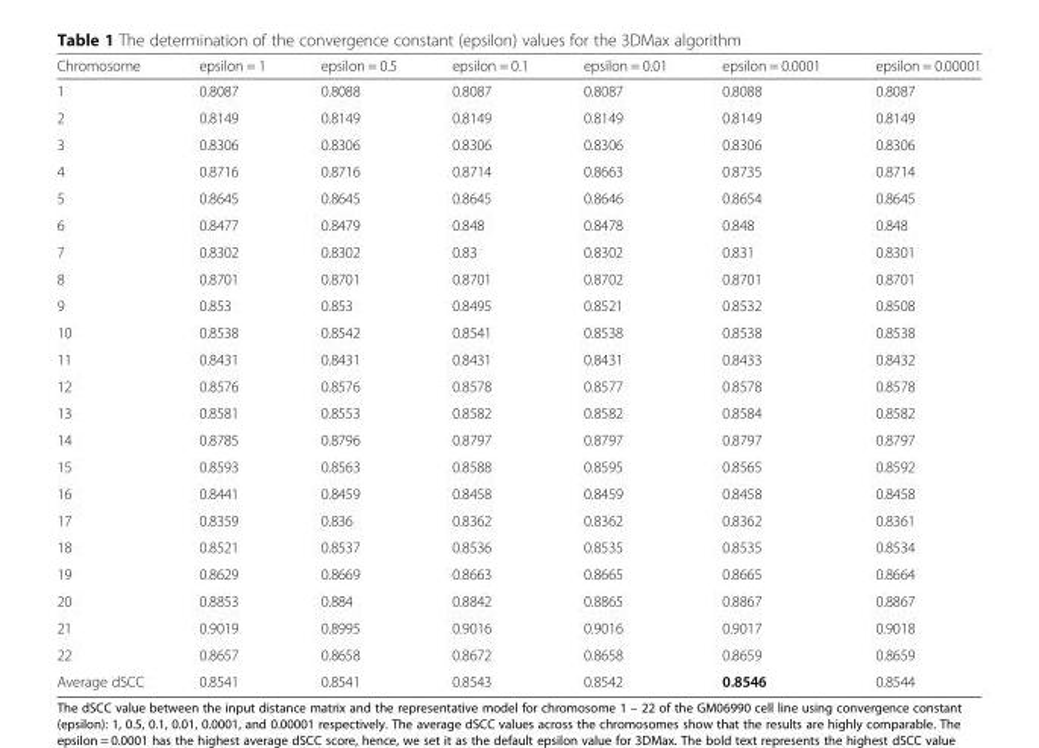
<table><thead><tr><td>Chromosome</td><td>epsilon = 1</td><td>epsilon = 0.5</td><td>epsilon = 0.1</td><td>epsilon = 0.01</td><td>epsilon = 0.0001</td><td>epsilon = 0.00001</td></tr></thead><tbody><tr><td>1</td><td>0.8087</td><td>0.8088</td><td>0.8087</td><td>0.8087</td><td>0.8088</td><td>0.8087</td></tr><tr><td>2</td><td>0.8149</td><td>0.8149</td><td>0.8149</td><td>0.8149</td><td>0.8149</td><td>0.8149</td></tr><tr><td>3</td><td>0.8306</td><td>0.8306</td><td>0.8306</td><td>0.8306</td><td>0.8306</td><td>0.8306</td></tr><tr><td>4</td><td>0.8716</td><td>0.8716</td><td>0.8714</td><td>0.8663</td><td>0.8735</td><td>0.8714</td></tr><tr><td>5</td><td>0.8645</td><td>0.8645</td><td>0.8645</td><td>0.8646</td><td>0.8654</td><td>0.8645</td></tr><tr><td>6</td><td>0.8477</td><td>0.8479</td><td>0.848</td><td>0.8478</td><td>0.848</td><td>0.848</td></tr><tr><td>7</td><td>0.8302</td><td>0.8302</td><td>0.83</td><td>0.8302</td><td>0.831</td><td>0.8301</td></tr><tr><td>8</td><td>0.8701</td><td>0.8701</td><td>0.8701</td><td>0.8702</td><td>0.8701</td><td>0.8701</td></tr><tr><td>9</td><td>0.853</td><td>0.853</td><td>0.8495</td><td>0.8521</td><td>0.8532</td><td>0.8508</td></tr><tr><td>10</td><td>0.8538</td><td>0.8542</td><td>0.8541</td><td>0.8538</td><td>0.8538</td><td>0.8538</td></tr><tr><td>11</td><td>0.8431</td><td>0.8431</td><td>0.8431</td><td>0.8431</td><td>0.8433</td><td>0.8432</td></tr><tr><td>12</td><td>0.8576</td><td>0.8576</td><td>0.8578</td><td>0.8577</td><td>0.8578</td><td>0.8578</td></tr><tr><td>13</td><td>0.8581</td><td>0.8553</td><td>0.8582</td><td>0.8582</td><td>0.8584</td><td>0.8582</td></tr><tr><td>14</td><td>0.8785</td><td>0.8796</td><td>0.8797</td><td>0.8797</td><td>0.8797</td><td>0.8797</td></tr><tr><td>15</td><td>0.8593</td><td>0.8563</td><td>0.8588</td><td>0.8595</td><td>0.8565</td><td>0.8592</td></tr><tr><td>16</td><td>0.8441</td><td>0.8459</td><td>0.8458</td><td>0.8459</td><td>0.8458</td><td>0.8458</td></tr><tr><td>17</td><td>0.8359</td><td>0.836</td><td>0.8362</td><td>0.8362</td><td>0.8362</td><td>0.8361</td></tr><tr><td>18</td><td>0.8521</td><td>0.8537</td><td>0.8536</td><td>0.8535</td><td>0.8535</td><td>0.8534</td></tr><tr><td>19</td><td>0.8629</td><td>0.8669</td><td>0.8663</td><td>0.8665</td><td>0.8665</td><td>0.8664</td></tr><tr><td>20</td><td>0.8853</td><td>0.884</td><td>0.8842</td><td>0.8865</td><td>0.8867</td><td>0.8867</td></tr><tr><td>21</td><td>0.9019</td><td>0.8995</td><td>0.9016</td><td>0.9016</td><td>0.9017</td><td>0.9018</td></tr><tr><td>22</td><td>0.8657</td><td>0.8658</td><td>0.8672</td><td>0.8658</td><td>0.8659</td><td>0.8659</td></tr><tr><td>Average dSCC</td><td>0.8541</td><td>0.8541</td><td>0.8543</td><td>0.8542</td><td>0.8546</td><td>0.8544</td></tr></tbody></table>